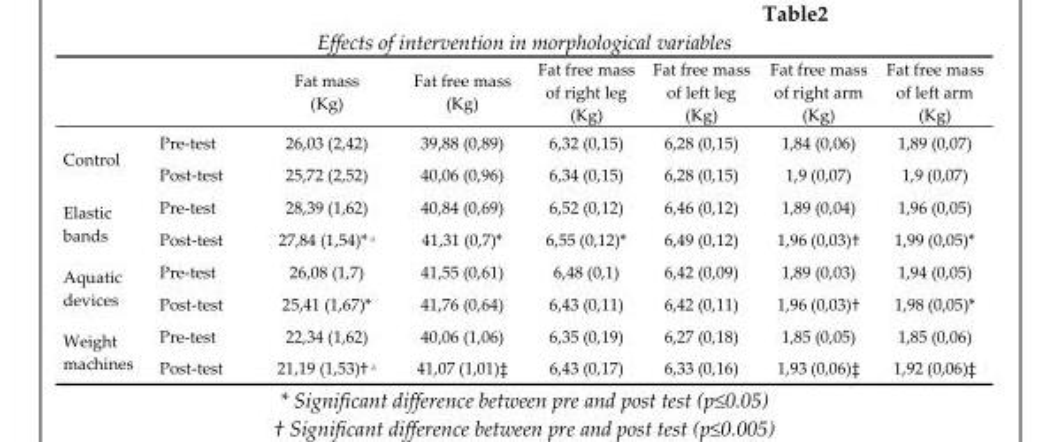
<table><thead><tr><td></td><td></td><td>Fat mass (Kg)</td><td>Fat free mass (Kg)</td><td>Fat free mass of right leg (Kg)</td><td>Fat free mass of left leg (Kg)</td><td>Fat free mass of right arm (Kg)</td><td>Fat free mass of left arm (Kg)</td></tr></thead><tbody><tr><td rowspan="2">Control</td><td>Pre-test</td><td>26,03 (2,42)</td><td>39,88 (0,89)</td><td>6,32 (0,15)</td><td>6,28 (0,15)</td><td>1,84 (0,06)</td><td>1,89 (0,07)</td></tr><tr><td>Post-test</td><td>25,72 (2,52)</td><td>40,06 (0,96)</td><td>6,34 (0,15)</td><td>6,28 (0,15)</td><td>1,9 (0,07)</td><td>1,9 (0,07)</td></tr><tr><td rowspan="2">Elastic bands</td><td>Pre-test</td><td>28,39 (1,62)</td><td>40,84 (0,69)</td><td>6,52 (0,12)</td><td>6,46 (0,12)</td><td>1,89 (0,04)</td><td>1,96 (0,05)</td></tr><tr><td>Post-test</td><td>27,84 (1,54)<sup>* a</sup></td><td>41,31 (0,7)*</td><td>6,55 (0,12)*</td><td>6,49 (0,12)</td><td>1,96 (0,03)<sup>†</sup></td><td>1,99 (0,05)*</td></tr><tr><td rowspan="2">Aquatic devices</td><td>Pre-test</td><td>26,08 (1,7)</td><td>41,55 (0,61)</td><td>6,48 (0,1)</td><td>6,42 (0,09)</td><td>1,89 (0,03)</td><td>1,94 (0,05)</td></tr><tr><td>Post-test</td><td>25,41 (1,67)*</td><td>41,76 (0,64)</td><td>6,43 (0,11)</td><td>6,42 (0,11)</td><td>1,96 (0,03)<sup>†</sup></td><td>1,98 (0,05)*</td></tr><tr><td rowspan="2">Weight machines</td><td>Pre-test</td><td>22,34 (1,62)</td><td>40,06 (1,06)</td><td>6,35 (0,19)</td><td>6,27 (0,18)</td><td>1,85 (0,05)</td><td>1,85 (0,06)</td></tr><tr><td>Post-test</td><td>21,19 (1,53)<sup>† a</sup></td><td>41,07 (1,01)<sup>‡</sup></td><td>6,43 (0,17)</td><td>6,33 (0,16)</td><td>1,93 (0,06)<sup>‡</sup></td><td>1,92 (0,06)<sup>‡</sup></td></tr></tbody></table>